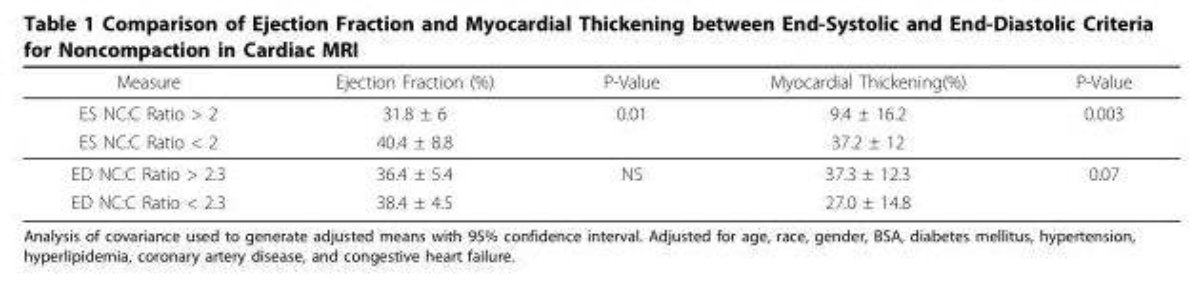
<table><thead><tr><td>Measure</td><td>Ejection Fraction (%)</td><td>P-Value</td><td>Myocardial Thickening(%)</td><td>P-Value</td></tr></thead><tbody><tr><td>ES NC:C Ratio &gt; 2</td><td>31.8 ± 6</td><td>0.01</td><td>9.4 ± 16.2</td><td>0.003</td></tr><tr><td>ES NC:C Ratio &lt; 2</td><td>40.4 ± 8.8</td><td></td><td>37.2 ± 12</td><td></td></tr><tr><td>ED NC:C Ratio &gt; 2.3</td><td>36.4 ± 5.4</td><td>NS</td><td>37.3 ± 12.3</td><td>0.07</td></tr><tr><td>ED NC:C Ratio &lt; 2.3</td><td>38.4 ± 4.5</td><td></td><td>27.0 ± 14.8</td><td></td></tr></tbody></table>